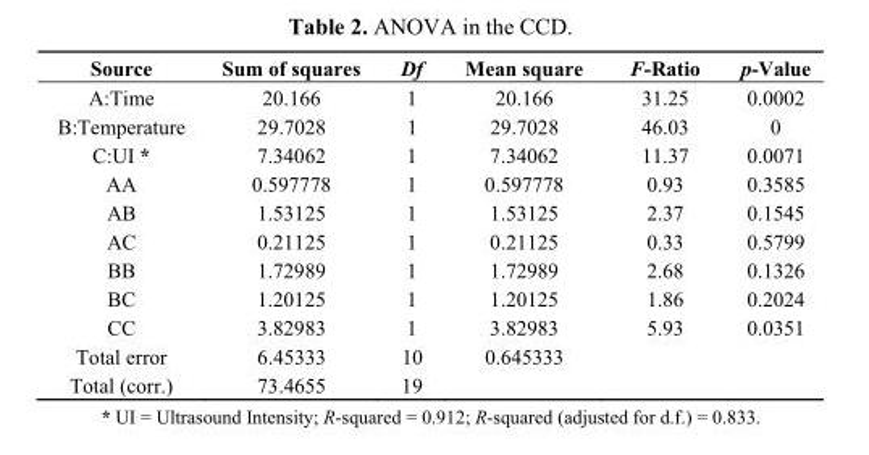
<table><thead><tr><td>Source</td><td>Sum of squares</td><td>Df</td><td>Mean square</td><td>F-Ratio</td><td>p-Value</td></tr></thead><tbody><tr><td>A:Time</td><td>20.166</td><td>1</td><td>20.166</td><td>31.25</td><td>0.0002</td></tr><tr><td>B:Temperature</td><td>29.7028</td><td>1</td><td>29.7028</td><td>46.03</td><td>0</td></tr><tr><td>C:UI *</td><td>7.34062</td><td>1</td><td>7.34062</td><td>11.37</td><td>0.0071</td></tr><tr><td>AA</td><td>0.597778</td><td>1</td><td>0.597778</td><td>0.93</td><td>0.3585</td></tr><tr><td>AB</td><td>1.53125</td><td>1</td><td>1.53125</td><td>2.37</td><td>0.1545</td></tr><tr><td>AC</td><td>0.21125</td><td>1</td><td>0.21125</td><td>0.33</td><td>0.5799</td></tr><tr><td>BB</td><td>1.72989</td><td>1</td><td>1.72989</td><td>2.68</td><td>0.1326</td></tr><tr><td>BC</td><td>1.20125</td><td>1</td><td>1.20125</td><td>1.86</td><td>0.2024</td></tr><tr><td>CC</td><td>3.82983</td><td>1</td><td>3.82983</td><td>5.93</td><td>0.0351</td></tr><tr><td>Total error</td><td>6.45333</td><td>10</td><td>0.645333</td><td></td><td></td></tr><tr><td>Total (corr.)</td><td>73.4655</td><td>19</td><td></td><td></td><td></td></tr></tbody></table>